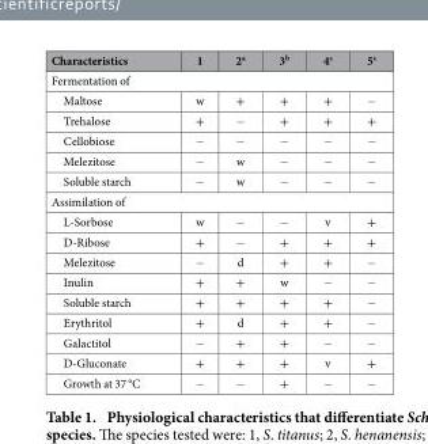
<table><thead><tr><td>Characteristics</td><td>1</td><td>2<sup>a</sup></td><td>3<sup>b</sup></td><td>4<sup>c</sup></td><td>5<sup>c</sup></td></tr></thead><tbody><tr><td colspan="6">Fermentation of</td></tr><tr><td>Maltose</td><td>w</td><td>+</td><td>+</td><td>+</td><td>−</td></tr><tr><td>Trehalose</td><td>+</td><td>−</td><td>+</td><td>+</td><td>+</td></tr><tr><td>Cellobiose</td><td>−</td><td>−</td><td>−</td><td>−</td><td>−</td></tr><tr><td>Melezitose</td><td>−</td><td>w</td><td>−</td><td>−</td><td>−</td></tr><tr><td>Soluble starch</td><td>−</td><td>w</td><td>−</td><td>−</td><td>−</td></tr><tr><td colspan="6">Assimilation of</td></tr><tr><td>L-Sorbose</td><td>w</td><td>−</td><td>−</td><td>v</td><td>+</td></tr><tr><td>D-Ribose</td><td>+</td><td>−</td><td>+</td><td>+</td><td>+</td></tr><tr><td>Melezitose</td><td>−</td><td>d</td><td>+</td><td>+</td><td>−</td></tr><tr><td>Inulin</td><td>+</td><td>+</td><td>w</td><td>−</td><td>−</td></tr><tr><td>Soluble starch</td><td>+</td><td>+</td><td>+</td><td>+</td><td>−</td></tr><tr><td>Erythritol</td><td>+</td><td>d</td><td>+</td><td>+</td><td>−</td></tr><tr><td>Galactitol</td><td>−</td><td>+</td><td>+</td><td>−</td><td>−</td></tr><tr><td>D-Gluconate</td><td>+</td><td>+</td><td>+</td><td>v</td><td>+</td></tr><tr><td>Growth at 37 °C</td><td>−</td><td>−</td><td>+</td><td>−</td><td>−</td></tr></tbody></table>